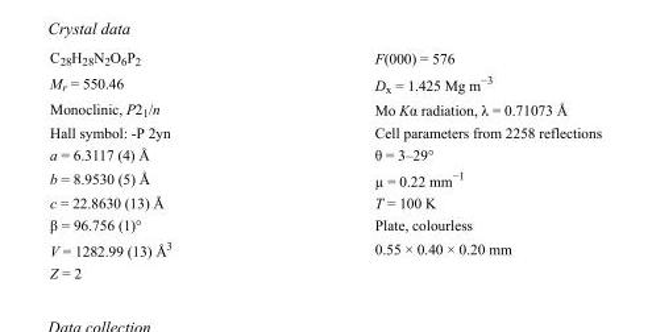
<table><tbody><tr><td>C<sub>28</sub>H<sub>28</sub>N<sub>2</sub>O<sub>6</sub>P<sub>2</sub></td><td>F(000) = 576</td></tr><tr><td>M<sub>r</sub> = 550.46</td><td>D<sub>x</sub> = 1.425 Mg m<sup>−3</sup></td></tr><tr><td>Monoclinic, P2<sub>1</sub>/n</td><td>Mo Kα radiation, λ = 0.71073 Å</td></tr><tr><td>Hall symbol: -P 2yn</td><td>Cell parameters from 2258 reflections</td></tr><tr><td>a = 6.3117 (4) Å</td><td>θ = 3–29°</td></tr><tr><td>b = 8.9530 (5) Å</td><td>µ = 0.22 mm<sup>−1</sup></td></tr><tr><td>c = 22.8630 (13) Å</td><td>T = 100 K</td></tr><tr><td>β = 96.756 (1)°</td><td>Plate, colourless</td></tr><tr><td>V = 1282.99 (13) Å<sup>3</sup></td><td>0.55 × 0.40 × 0.20 mm</td></tr><tr><td>Z = 2</td><td></td></tr></tbody></table>